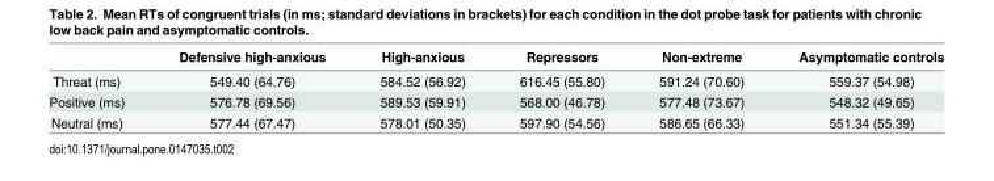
<table><thead><tr><td></td><td>Defensive high-anxious</td><td>High-anxious</td><td>Repressors</td><td>Non-extreme</td><td>Asymptomatic controls</td></tr></thead><tbody><tr><td>Threat (ms)</td><td>549.40 (64.76)</td><td>584.52 (56.92)</td><td>616.45 (55.80)</td><td>591.24 (70.60)</td><td>559.37 (54.98)</td></tr><tr><td>Positive (ms)</td><td>576.78 (69.56)</td><td>589.53 (59.91)</td><td>568.00 (46.78)</td><td>577.48 (73.67)</td><td>548.32 (49.65)</td></tr><tr><td>Neutral (ms)</td><td>577.44 (67.47)</td><td>578.01 (50.35)</td><td>597.90 (54.56)</td><td>586.65 (66.33)</td><td>551.34 (55.39)</td></tr></tbody></table>